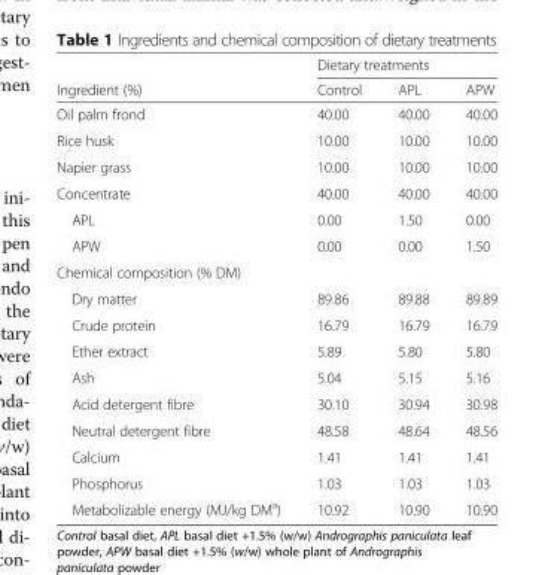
<table><thead><tr><td rowspan="2">Ingredient (%)</td><td colspan="3">Dietary treatments</td></tr><tr><td>Control</td><td>APL</td><td>APW</td></tr></thead><tbody><tr><td>Oil palm frond</td><td>40.00</td><td>40.00</td><td>40.00</td></tr><tr><td>Rice husk</td><td>10.00</td><td>10.00</td><td>10.00</td></tr><tr><td>Napier grass</td><td>10.00</td><td>10.00</td><td>10.00</td></tr><tr><td>Concentrate</td><td>40.00</td><td>40.00</td><td>40.00</td></tr><tr><td>APL</td><td>0.00</td><td>1.50</td><td>0.00</td></tr><tr><td>APW</td><td>0.00</td><td>0.00</td><td>1.50</td></tr><tr><td colspan="4">Chemical composition (% DM)</td></tr><tr><td>Dry matter</td><td>89.86</td><td>89.88</td><td>89.89</td></tr><tr><td>Crude protein</td><td>16.79</td><td>16.79</td><td>16.79</td></tr><tr><td>Ether extract</td><td>5.89</td><td>5.80</td><td>5.80</td></tr><tr><td>Ash</td><td>5.04</td><td>5.15</td><td>5.16</td></tr><tr><td>Acid detergent fibre</td><td>30.10</td><td>30.94</td><td>30.98</td></tr><tr><td>Neutral detergent fibre</td><td>48.58</td><td>48.64</td><td>48.56</td></tr><tr><td>Calcium</td><td>1.41</td><td>1.41</td><td>1.41</td></tr><tr><td>Phosphorus</td><td>1.03</td><td>1.03</td><td>1.03</td></tr><tr><td>Metabolizable energy (MJ/kg DM<sup>a</sup>)</td><td>10.92</td><td>10.90</td><td>10.90</td></tr></tbody></table>